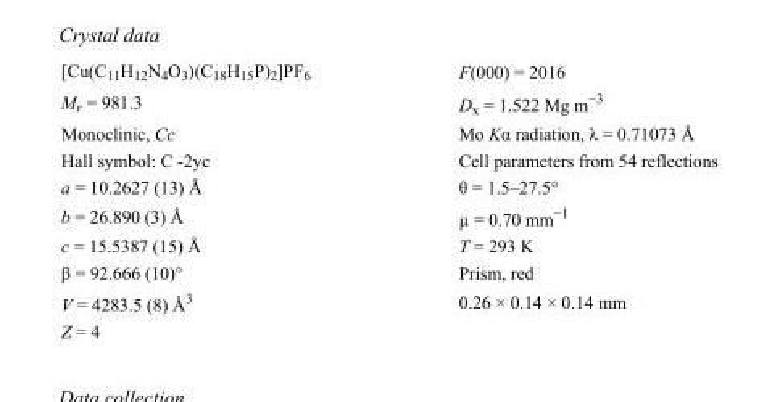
<table><tbody><tr><td>[Cu(C<sub>11</sub>H<sub>12</sub>N<sub>4</sub>O<sub>3</sub>)(C<sub>18</sub>H<sub>15</sub>P)<sub>2</sub>]PF<sub>6</sub></td><td>F(000) = 2016</td></tr><tr><td>M<sub>r</sub> = 981.3</td><td>D<sub>x</sub> = 1.522 Mg m<sup>−3</sup></td></tr><tr><td>Monoclinic, Cc</td><td>Mo Kα radiation, λ = 0.71073 Å</td></tr><tr><td>Hall symbol: C -2yc</td><td>Cell parameters from 54 reflections</td></tr><tr><td>a = 10.2627 (13) Å</td><td>θ = 1.5–27.5°</td></tr><tr><td>b = 26.890 (3) Å</td><td>µ = 0.70 mm<sup>−1</sup></td></tr><tr><td>c = 15.5387 (15) Å</td><td>T = 293 K</td></tr><tr><td>β = 92.666 (10)°</td><td>Prism, red</td></tr><tr><td>V = 4283.5 (8) Å<sup>3</sup></td><td>0.26 × 0.14 × 0.14 mm</td></tr><tr><td>Z = 4</td><td></td></tr></tbody></table>